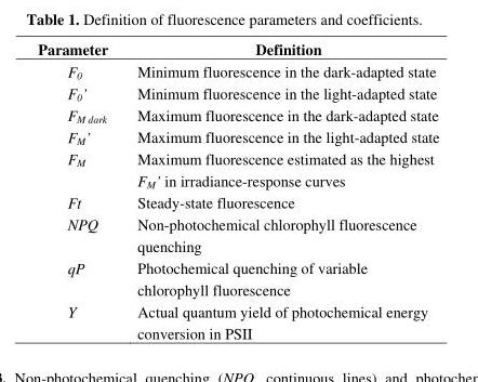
<table><thead><tr><td>Parameter</td><td>Definition</td></tr></thead><tbody><tr><td>F<sub>0</sub></td><td>Minimum fluorescence in the dark-adapted state</td></tr><tr><td>F<sub>0</sub>’</td><td>Minimum fluorescence in the light-adapted state</td></tr><tr><td>F<sub>M dark</sub></td><td>Maximum fluorescence in the dark-adapted state</td></tr><tr><td>F<sub>M</sub>’</td><td>Maximum fluorescence in the light-adapted state</td></tr><tr><td>F<sub>M</sub></td><td>Maximum fluorescence estimated as the highest F<sub>M</sub>’ in irradiance-response curves</td></tr><tr><td>Ft</td><td>Steady-state fluorescence</td></tr><tr><td>NPQ</td><td>Non-photochemical chlorophyll fluorescence quenching</td></tr><tr><td>qP</td><td>Photochemical quenching of variable chlorophyll fluorescence</td></tr><tr><td>Y</td><td>Actual quantum yield of photochemical energy conversion in PSII</td></tr></tbody></table>